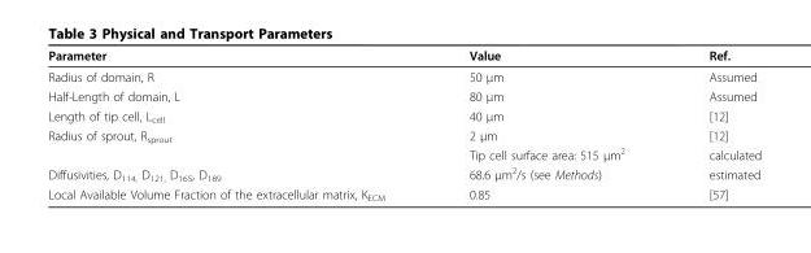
<table><thead><tr><td>Parameter</td><td>Value</td><td>Ref.</td></tr></thead><tbody><tr><td>Radius of domain, R</td><td>50 μm</td><td>Assumed</td></tr><tr><td>Half-Length of domain, L</td><td>80 μm</td><td>Assumed</td></tr><tr><td>Length of tip cell, L<sub>cell</sub></td><td>40 μm</td><td>[12]</td></tr><tr><td rowspan="2">Radius of sprout, R<sub>sprout</sub></td><td>2 μm</td><td>[12]</td></tr><tr><td>Tip cell surface area: 515 μm<sup>2</sup></td><td>calculated</td></tr><tr><td>Diffusivities, D<sub>114,</sub> D<sub>121,</sub> D<sub>165</sub>, D<sub>189</sub></td><td>68.6 μm<sup>2</sup>/s (see Methods)</td><td>estimated</td></tr><tr><td>Local Available Volume Fraction of the extracellular matrix, K<sub>ECM</sub></td><td>0.85</td><td>[57]</td></tr></tbody></table>